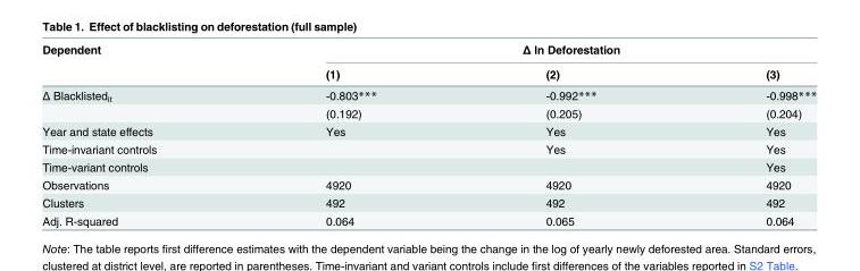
<table><thead><tr><td rowspan="2">Dependent</td><td colspan="3">Δ ln Deforestation</td></tr><tr><td>(1)</td><td>(2)</td><td>(3)</td></tr></thead><tbody><tr><td rowspan="2">Δ Blacklisted<sub>it</sub></td><td>-0.803***</td><td>-0.992***</td><td>-0.998***</td></tr><tr><td>(0.192)</td><td>(0.205)</td><td>(0.204)</td></tr><tr><td>Year and state effects</td><td>Yes</td><td>Yes</td><td>Yes</td></tr><tr><td>Time-invariant controls</td><td></td><td>Yes</td><td>Yes</td></tr><tr><td>Time-variant controls</td><td></td><td></td><td>Yes</td></tr><tr><td>Observations</td><td>4920</td><td>4920</td><td>4920</td></tr><tr><td>Clusters</td><td>492</td><td>492</td><td>492</td></tr><tr><td>Adj. R-squared</td><td>0.064</td><td>0.065</td><td>0.064</td></tr></tbody></table>